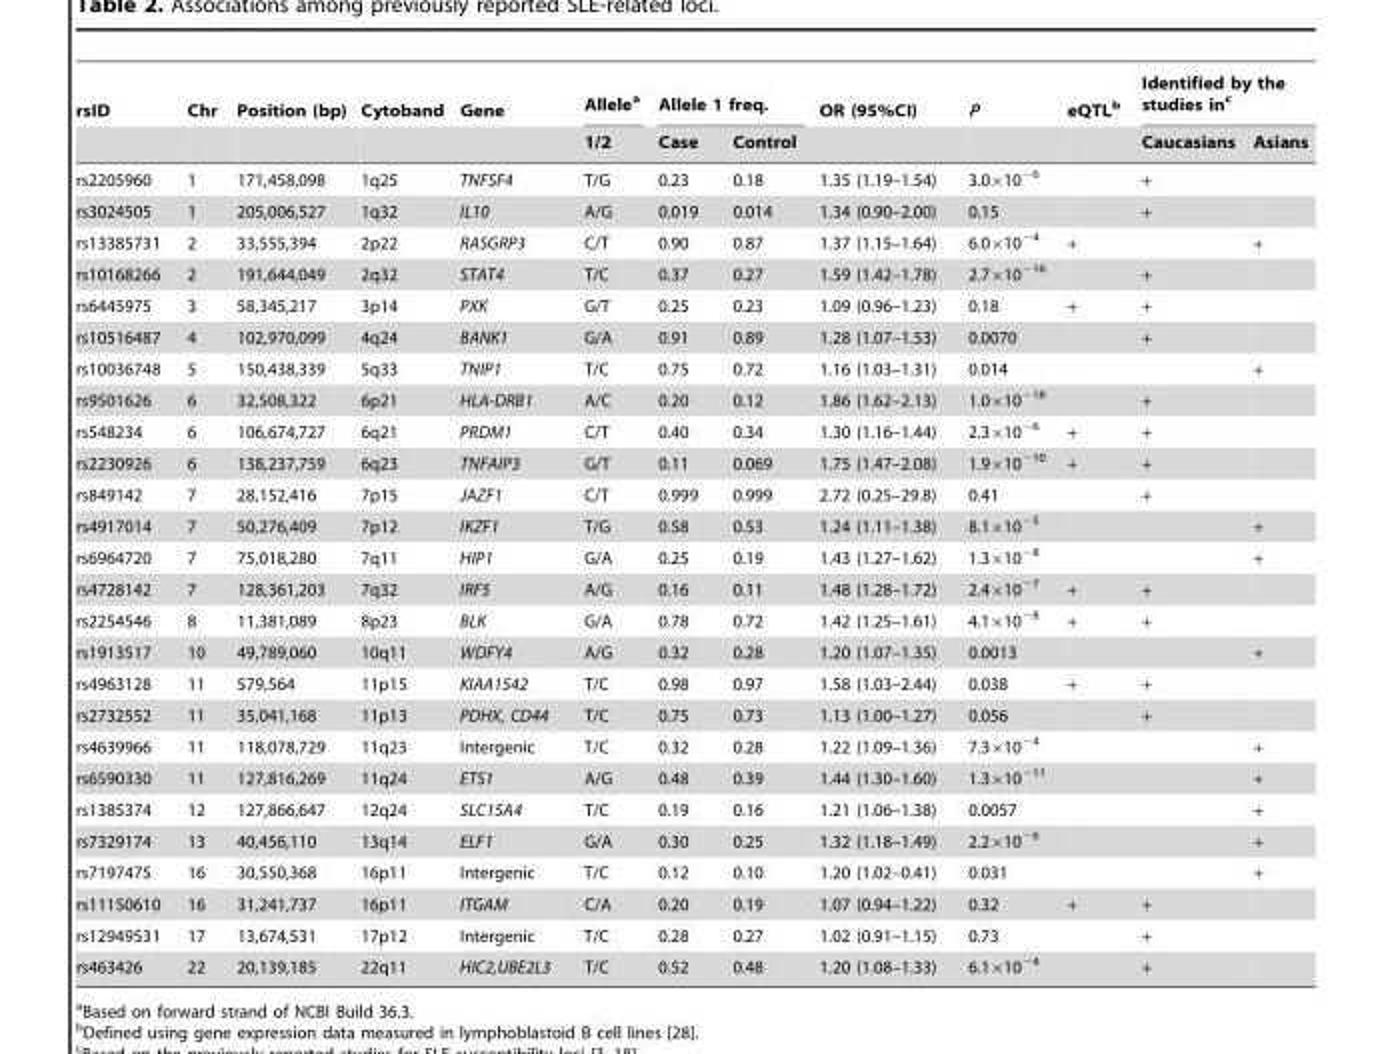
<table><thead><tr><td rowspan="2">rsID</td><td rowspan="2">Chr</td><td rowspan="2">Position (bp)</td><td rowspan="2">Cytoband</td><td rowspan="2">Gene</td><td rowspan="2">Allele<sup>a</sup> 1/2</td><td colspan="2">Allele 1 freq.</td><td rowspan="2">OR (95%CI)</td><td rowspan="2">P</td><td rowspan="2">eQTL<sup>b</sup></td><td colspan="2">Identified by the studies in<sup>c</sup></td></tr><tr><td>Case</td><td>Control</td><td>Caucasians</td><td>Asians</td></tr></thead><tbody><tr><td>rs2205960</td><td>1</td><td>171,458,098</td><td>1q25</td><td>TNFSF4</td><td>T/G</td><td>0.23</td><td>0.18</td><td>1.35 (1.19–1.54)</td><td>3.0×10<sup>−6</sup></td><td></td><td>+</td><td></td></tr><tr><td>rs3024505</td><td>1</td><td>205,006,527</td><td>1q32</td><td>IL10</td><td>A/G</td><td>0.019</td><td>0.014</td><td>1.34 (0.90–2.00)</td><td>0.15</td><td></td><td>+</td><td></td></tr><tr><td>rs13385731</td><td>2</td><td>33,555,394</td><td>2p22</td><td>RASGRP3</td><td>C/T</td><td>0.90</td><td>0.87</td><td>1.37 (1.15–1.64)</td><td>6.0×10<sup>−4</sup></td><td>+</td><td></td><td>+</td></tr><tr><td>rs10168266</td><td>2</td><td>191,644,049</td><td>2q32</td><td>STAT4</td><td>T/C</td><td>0.37</td><td>0.27</td><td>1.59 (1.42–1.78)</td><td>2.7×10<sup>−16</sup></td><td></td><td>+</td><td></td></tr><tr><td>rs6445975</td><td>3</td><td>58,345,217</td><td>3p14</td><td>PXK</td><td>G/T</td><td>0.25</td><td>0.23</td><td>1.09 (0.96–1.23)</td><td>0.18</td><td>+</td><td>+</td><td></td></tr><tr><td>rs10516487</td><td>4</td><td>102,970,099</td><td>4q24</td><td>BANK1</td><td>G/A</td><td>0.91</td><td>0.89</td><td>1.28 (1.07–1.53)</td><td>0.0070</td><td></td><td>+</td><td></td></tr><tr><td>rs10036748</td><td>5</td><td>150,438,339</td><td>5q33</td><td>TNIP1</td><td>T/C</td><td>0.75</td><td>0.72</td><td>1.16 (1.03–1.31)</td><td>0.014</td><td></td><td></td><td>+</td></tr><tr><td>rs9501626</td><td>6</td><td>32,508,322</td><td>6p21</td><td>HLA-DRB1</td><td>A/C</td><td>0.20</td><td>0.12</td><td>1.86 (1.62–2.13)</td><td>1.0×10<sup>−18</sup></td><td></td><td>+</td><td></td></tr><tr><td>rs548234</td><td>6</td><td>106,674,727</td><td>6q21</td><td>PRDM1</td><td>C/T</td><td>0.40</td><td>0.34</td><td>1.30 (1.16–1.44)</td><td>2.3×10<sup>−6</sup></td><td>+</td><td>+</td><td></td></tr><tr><td>rs2230926</td><td>6</td><td>138,237,759</td><td>6q23</td><td>TNFAIP3</td><td>G/T</td><td>0.11</td><td>0.069</td><td>1.75 (1.47–2.08)</td><td>1.9×10<sup>−10</sup></td><td>+</td><td>+</td><td></td></tr><tr><td>rs849142</td><td>7</td><td>28,152,416</td><td>7p15</td><td>JAZF1</td><td>C/T</td><td>0.999</td><td>0.999</td><td>2.72 (0.25–29.8)</td><td>0.41</td><td></td><td>+</td><td></td></tr><tr><td>rs4917014</td><td>7</td><td>50,276,409</td><td>7p12</td><td>IKZF1</td><td>T/G</td><td>0.58</td><td>0.53</td><td>1.24 (1.11–1.38)</td><td>8.1×10<sup>−5</sup></td><td></td><td></td><td>+</td></tr><tr><td>rs6964720</td><td>7</td><td>75,018,280</td><td>7q11</td><td>HIP1</td><td>G/A</td><td>0.25</td><td>0.19</td><td>1.43 (1.27–1.62)</td><td>1.3×10<sup>−8</sup></td><td></td><td></td><td>+</td></tr><tr><td>rs4728142</td><td>7</td><td>128,361,203</td><td>7q32</td><td>IRF5</td><td>A/G</td><td>0.16</td><td>0.11</td><td>1.48 (1.28–1.72)</td><td>2.4×10<sup>−7</sup></td><td>+</td><td>+</td><td></td></tr><tr><td>rs2254546</td><td>8</td><td>11,381,089</td><td>8p23</td><td>BLK</td><td>G/A</td><td>0.78</td><td>0.72</td><td>1.42 (1.25–1.61)</td><td>4.1×10<sup>−8</sup></td><td>+</td><td>+</td><td></td></tr><tr><td>rs1913517</td><td>10</td><td>49,789,060</td><td>10q11</td><td>WDFY4</td><td>A/G</td><td>0.32</td><td>0.28</td><td>1.20 (1.07–1.35)</td><td>0.0013</td><td></td><td></td><td>+</td></tr><tr><td>rs4963128</td><td>11</td><td>579,564</td><td>11p15</td><td>KIAA1542</td><td>T/C</td><td>0.98</td><td>0.97</td><td>1.58 (1.03–2.44)</td><td>0.038</td><td>+</td><td>+</td><td></td></tr><tr><td>rs2732552</td><td>11</td><td>35,041,168</td><td>11p13</td><td>PDHX, CD44</td><td>T/C</td><td>0.75</td><td>0.73</td><td>1.13 (1.00–1.27)</td><td>0.056</td><td></td><td>+</td><td></td></tr><tr><td>rs4639966</td><td>11</td><td>118,078,729</td><td>11q23</td><td>Intergenic</td><td>T/C</td><td>0.32</td><td>0.28</td><td>1.22 (1.09–1.36)</td><td>7.3×10<sup>−4</sup></td><td></td><td></td><td>+</td></tr><tr><td>rs6590330</td><td>11</td><td>127,816,269</td><td>11q24</td><td>ETS1</td><td>A/G</td><td>0.48</td><td>0.39</td><td>1.44 (1.30–1.60)</td><td>1.3×10<sup>−11</sup></td><td></td><td></td><td>+</td></tr><tr><td>rs1385374</td><td>12</td><td>127,866,647</td><td>12q24</td><td>SLC15A4</td><td>T/C</td><td>0.19</td><td>0.16</td><td>1.21 (1.06–1.38)</td><td>0.0057</td><td></td><td></td><td>+</td></tr><tr><td>rs7329174</td><td>13</td><td>40,456,110</td><td>13q14</td><td>ELF1</td><td>G/A</td><td>0.30</td><td>0.25</td><td>1.32 (1.18–1.49)</td><td>2.2×10<sup>−6</sup></td><td></td><td></td><td>+</td></tr><tr><td>rs7197475</td><td>16</td><td>30,550,368</td><td>16p11</td><td>Intergenic</td><td>T/C</td><td>0.12</td><td>0.10</td><td>1.20 (1.02–0.41)</td><td>0.031</td><td></td><td></td><td>+</td></tr><tr><td>rs11150610</td><td>16</td><td>31,241,737</td><td>16p11</td><td>ITGAM</td><td>C/A</td><td>0.20</td><td>0.19</td><td>1.07 (0.94–1.22)</td><td>0.32</td><td>+</td><td>+</td><td></td></tr><tr><td>rs12949531</td><td>17</td><td>13,674,531</td><td>17p12</td><td>Intergenic</td><td>T/C</td><td>0.28</td><td>0.27</td><td>1.02 (0.91–1.15)</td><td>0.73</td><td></td><td>+</td><td></td></tr><tr><td>rs463426</td><td>22</td><td>20,139,185</td><td>22q11</td><td>HIC2,UBE2L3</td><td>T/C</td><td>0.52</td><td>0.48</td><td>1.20 (1.08–1.33)</td><td>6.1×10<sup>−4</sup></td><td></td><td>+</td><td></td></tr></tbody></table>